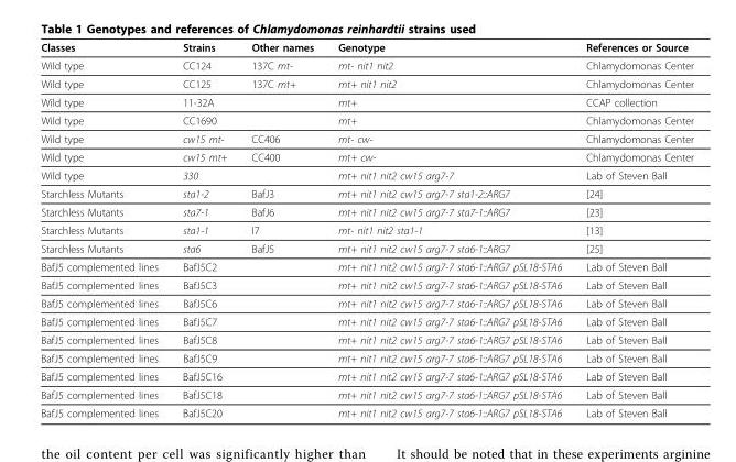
<table><thead><tr><td>Classes</td><td>Strains</td><td>Other names</td><td>Genotype</td><td>References or Source</td></tr></thead><tbody><tr><td>Wild type</td><td>CC124</td><td>137C mt-</td><td>mt- nit1 nit2</td><td>Chlamydomonas Center</td></tr><tr><td>Wild type</td><td>CC125</td><td>137C mt+</td><td>mt+ nit1 nit2</td><td>Chlamydomonas Center</td></tr><tr><td>Wild type</td><td>11-32A</td><td></td><td>mt+</td><td>CCAP collection</td></tr><tr><td>Wild type</td><td>CC1690</td><td></td><td>mt+</td><td>Chlamydomonas Center</td></tr><tr><td>Wild type</td><td>cw15 mt-</td><td>CC406</td><td>mt- cw-</td><td>Chlamydomonas Center</td></tr><tr><td>Wild type</td><td>cw15 mt+</td><td>CC400</td><td>mt+ cw-</td><td>Chlamydomonas Center</td></tr><tr><td>Wild type</td><td>330</td><td></td><td>mt+ nit1 nit2 cw15 arg7-7</td><td>Lab of Steven Ball</td></tr><tr><td>Starchless Mutants</td><td>sta1-2</td><td>BafJ3</td><td>mt+ nit1 nit2 cw15 arg7-7 sta1-2::ARG7</td><td>[24]</td></tr><tr><td>Starchless Mutants</td><td>sta7-1</td><td>BafJ6</td><td>mt+ nit1 nit2 cw15 arg7-7 sta7-1::ARG7</td><td>[23]</td></tr><tr><td>Starchless Mutants</td><td>sta1-1</td><td>I7</td><td>mt- nit1 nit2 sta1-1</td><td>[13]</td></tr><tr><td>Starchless Mutants</td><td>sta6</td><td>BafJ5</td><td>mt+ nit1 nit2 cw15 arg7-7 sta6-1::ARG7</td><td>[25]</td></tr><tr><td>BafJ5 complemented lines</td><td>BafJ5C2</td><td></td><td>mt+ nit1 nit2 cw15 arg7-7 sta6-1::ARG7 pSL18-STA6</td><td>Lab of Steven Ball</td></tr><tr><td>BafJ5 complemented lines</td><td>BafJ5C3</td><td></td><td>mt+ nit1 nit2 cw15 arg7-7 sta6-1::ARG7 pSL18-STA6</td><td>Lab of Steven Ball</td></tr><tr><td>BafJ5 complemented lines</td><td>BafJ5C6</td><td></td><td>mt+ nit1 nit2 cw15 arg7-7 sta6-1::ARG7 pSL18-STA6</td><td>Lab of Steven Ball</td></tr><tr><td>BafJ5 complemented lines</td><td>BafJ5C7</td><td></td><td>mt+ nit1 nit2 cw15 arg7-7 sta6-1::ARG7 pSL18-STA6</td><td>Lab of Steven Ball</td></tr><tr><td>BafJ5 complemented lines</td><td>BafJ5C8</td><td></td><td>mt+ nit1 nit2 cw15 arg7-7 sta6-1::ARG7 pSL18-STA6</td><td>Lab of Steven Ball</td></tr><tr><td>BafJ5 complemented lines</td><td>BafJ5C9</td><td></td><td>mt+ nit1 nit2 cw15 arg7-7 sta6-1::ARG7 pSL18-STA6</td><td>Lab of Steven Ball</td></tr><tr><td>BafJ5 complemented lines</td><td>BafJ5C16</td><td></td><td>mt+ nit1 nit2 cw15 arg7-7 sta6-1::ARG7 pSL18-STA6</td><td>Lab of Steven Ball</td></tr><tr><td>BafJ5 complemented lines</td><td>BafJ5C18</td><td></td><td>mt+ nit1 nit2 cw15 arg7-7 sta6-1::ARG7 pSL18-STA6</td><td>Lab of Steven Ball</td></tr><tr><td>BafJ5 complemented lines</td><td>BafJ5C20</td><td></td><td>mt+ nit1 nit2 cw15 arg7-7 sta6-1::ARG7 pSL18-STA6</td><td>Lab of Steven Ball</td></tr></tbody></table>